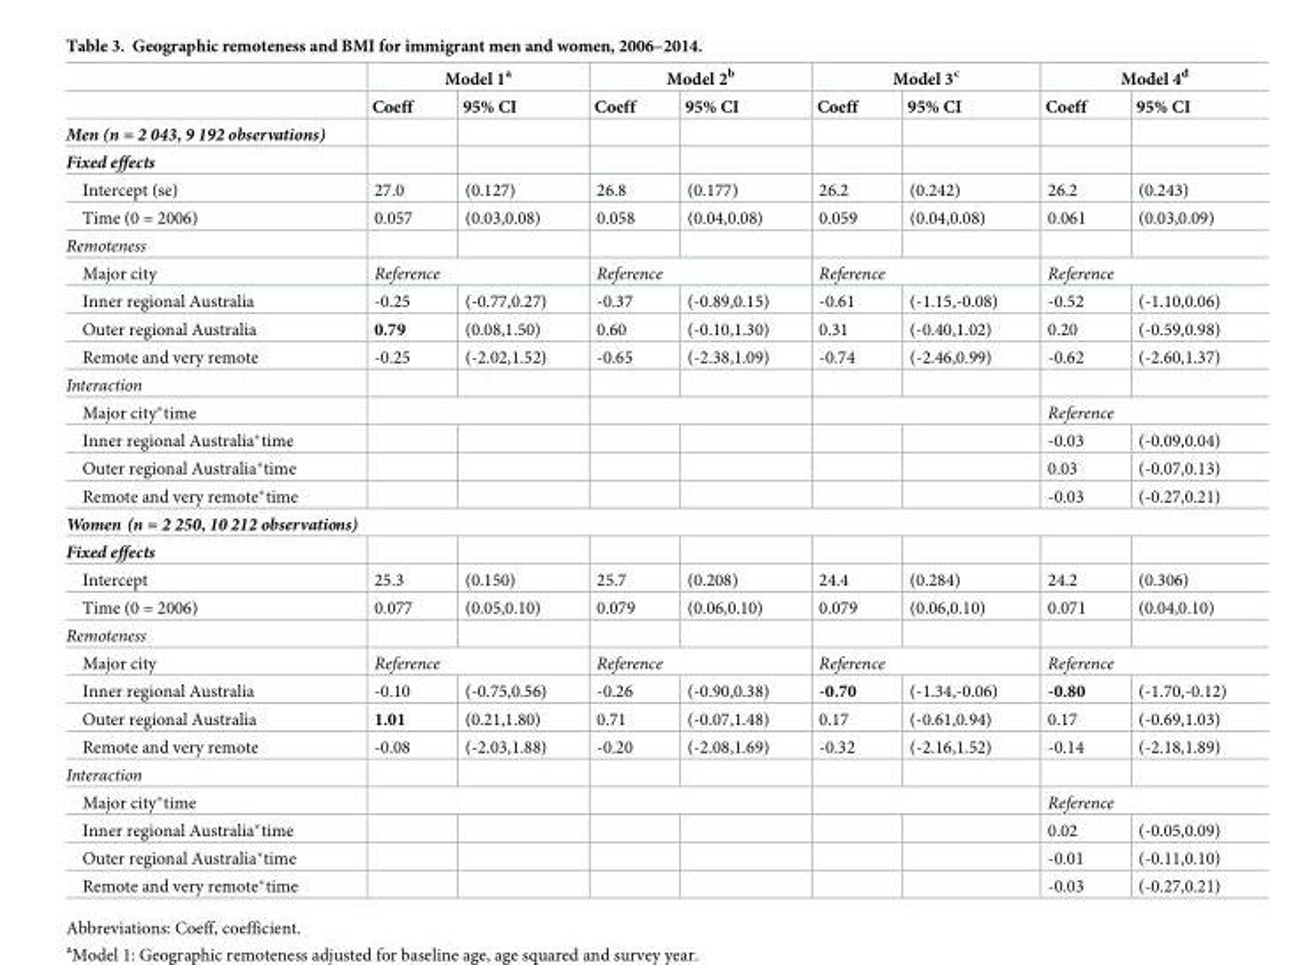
<table><thead><tr><td rowspan="2"></td><td colspan="2">Model 1<sup>a</sup></td><td colspan="2">Model 2<sup>b</sup></td><td colspan="2">Model 3<sup>c</sup></td><td colspan="2">Model 4<sup>d</sup></td></tr><tr><td>Coeff</td><td>95% CI</td><td>Coeff</td><td>95% CI</td><td>Coeff</td><td>95% CI</td><td>Coeff</td><td>95% CI</td></tr></thead><tbody><tr><td colspan="9">Men (n = 2 043, 9 192 observations)</td></tr><tr><td colspan="9">Fixed effects</td></tr><tr><td>Intercept (se)</td><td>27.0</td><td>(0.127)</td><td>26.8</td><td>(0.177)</td><td>26.2</td><td>(0.242)</td><td>26.2</td><td>(0.243)</td></tr><tr><td>Time (0 = 2006)</td><td>0.057</td><td>(0.03,0.08)</td><td>0.058</td><td>(0.04,0.08)</td><td>0.059</td><td>(0.04,0.08)</td><td>0.061</td><td>(0.03,0.09)</td></tr><tr><td colspan="9">Remoteness</td></tr><tr><td>Major city</td><td colspan="2">Reference</td><td colspan="2">Reference</td><td colspan="2">Reference</td><td colspan="2">Reference</td></tr><tr><td>Inner regional Australia</td><td>-0.25</td><td>(-0.77,0.27)</td><td>-0.37</td><td>(-0.89,0.15)</td><td>-0.61</td><td>(-1.15,-0.08)</td><td>-0.52</td><td>(-1.10,0.06)</td></tr><tr><td>Outer regional Australia</td><td>0.79</td><td>(0.08,1.50)</td><td>0.60</td><td>(-0.10,1.30)</td><td>0.31</td><td>(-0.40,1.02)</td><td>0.20</td><td>(-0.59,0.98)</td></tr><tr><td>Remote and very remote</td><td>-0.25</td><td>(-2.02,1.52)</td><td>-0.65</td><td>(-2.38,1.09)</td><td>-0.74</td><td>(-2.46,0.99)</td><td>-0.62</td><td>(-2.60,1.37)</td></tr><tr><td colspan="9">Interaction</td></tr><tr><td>Major city*time</td><td colspan="2"></td><td colspan="2"></td><td colspan="2"></td><td colspan="2">Reference</td></tr><tr><td>Inner regional Australia*time</td><td></td><td></td><td></td><td></td><td></td><td></td><td>-0.03</td><td>(-0.09,0.04)</td></tr><tr><td>Outer regional Australia*time</td><td></td><td></td><td></td><td></td><td></td><td></td><td>0.03</td><td>(-0.07,0.13)</td></tr><tr><td>Remote and very remote*time</td><td></td><td></td><td></td><td></td><td></td><td></td><td>-0.03</td><td>(-0.27,0.21)</td></tr><tr><td colspan="9">Women (n = 2 250, 10 212 observations)</td></tr><tr><td colspan="9">Fixed effects</td></tr><tr><td>Intercept</td><td>25.3</td><td>(0.150)</td><td>25.7</td><td>(0.208)</td><td>24.4</td><td>(0.284)</td><td>24.2</td><td>(0.306)</td></tr><tr><td>Time (0 = 2006)</td><td>0.077</td><td>(0.05,0.10)</td><td>0.079</td><td>(0.06,0.10)</td><td>0.079</td><td>(0.06,0.10)</td><td>0.071</td><td>(0.04,0.10)</td></tr><tr><td colspan="9">Remoteness</td></tr><tr><td>Major city</td><td colspan="2">Reference</td><td colspan="2">Reference</td><td colspan="2">Reference</td><td colspan="2">Reference</td></tr><tr><td>Inner regional Australia</td><td>-0.10</td><td>(-0.75,0.56)</td><td>-0.26</td><td>(-0.90,0.38)</td><td>-0.70</td><td>(-1.34,-0.06)</td><td>-0.80</td><td>(-1.70,-0.12)</td></tr><tr><td>Outer regional Australia</td><td>1.01</td><td>(0.21,1.80)</td><td>0.71</td><td>(-0.07,1.48)</td><td>0.17</td><td>(-0.61,0.94)</td><td>0.17</td><td>(-0.69,1.03)</td></tr><tr><td>Remote and very remote</td><td>-0.08</td><td>(-2.03,1.88)</td><td>-0.20</td><td>(-2.08,1.69)</td><td>-0.32</td><td>(-2.16,1.52)</td><td>-0.14</td><td>(-2.18,1.89)</td></tr><tr><td colspan="9">Interaction</td></tr><tr><td>Major city*time</td><td colspan="2"></td><td colspan="2"></td><td colspan="2"></td><td colspan="2">Reference</td></tr><tr><td>Inner regional Australia*time</td><td></td><td></td><td></td><td></td><td></td><td></td><td>0.02</td><td>(-0.05,0.09)</td></tr><tr><td>Outer regional Australia*time</td><td></td><td></td><td></td><td></td><td></td><td></td><td>-0.01</td><td>(-0.11,0.10)</td></tr><tr><td>Remote and very remote*time</td><td></td><td></td><td></td><td></td><td></td><td></td><td>-0.03</td><td>(-0.27,0.21)</td></tr></tbody></table>